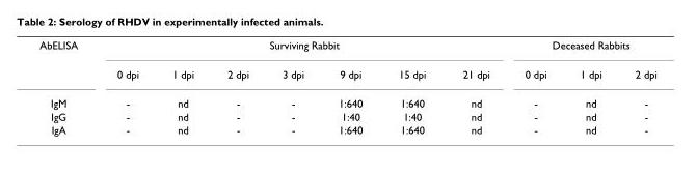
<table><tbody><tr><td rowspan="2">AbELISA</td><td colspan="7">Surviving Rabbit</td><td colspan="3">Deceased Rabbits</td></tr><tr><td>0 dpi</td><td>1 dpi</td><td>2 dpi</td><td>3 dpi</td><td>9 dpi</td><td>15 dpi</td><td>21 dpi</td><td>0 dpi</td><td>1 dpi</td><td>2 dpi</td></tr><tr><td>IgM</td><td>-</td><td>nd</td><td>-</td><td>-</td><td>1:640</td><td>1:640</td><td>nd</td><td>-</td><td>nd</td><td>-</td></tr><tr><td>IgG</td><td>-</td><td>nd</td><td>-</td><td>-</td><td>1:40</td><td>1:40</td><td>nd</td><td>-</td><td>nd</td><td>-</td></tr><tr><td>IgA</td><td>-</td><td>nd</td><td>-</td><td>-</td><td>1:640</td><td>1:640</td><td>nd</td><td>-</td><td>nd</td><td>-</td></tr></tbody></table>